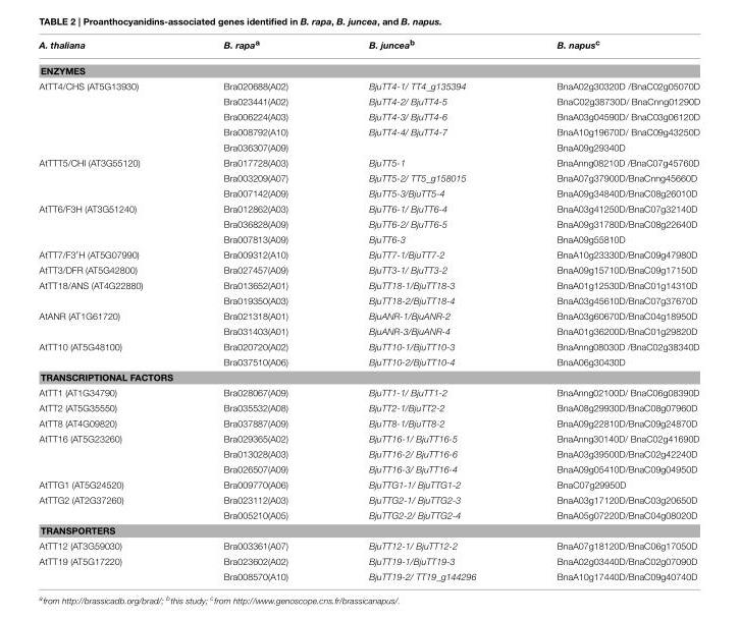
<table><thead><tr><td>A. thaliana</td><td>B. rapa<sup>a</sup></td><td>B. juncea<sup>b</sup></td><td>B. napus<sup>c</sup></td></tr></thead><tbody><tr><td colspan="4">ENZYMES</td></tr><tr><td rowspan="5">AtTT4/CHS (AT5G13930)</td><td>Bra020688(A02)</td><td>BjuTT4-1/ TT4_g135394</td><td>BnaA02g30320D /BnaC02g05070D</td></tr><tr><td>Bra023441(A02)</td><td>BjuTT4-2/ BjuTT4-5</td><td>BnaC02g38730D/ BnaCnng01290D</td></tr><tr><td>Bra006224(A03)</td><td>BjuTT4-3/ BjuTT4-6</td><td>BnaA03g04590D/ BnaC03g06120D</td></tr><tr><td>Bra008792(A10)</td><td>BjuTT4-4/ BjuTT4-7</td><td>BnaA10g19670D/ BnaC09g43250D</td></tr><tr><td>Bra036307(A09)</td><td></td><td>BnaA09g29340D</td></tr><tr><td rowspan="3">AtTTT5/CHI (AT3G55120)</td><td>Bra017728(A03)</td><td>BjuTT5-1</td><td>BnaAnng08210D /BnaC07g45760D</td></tr><tr><td>Bra003209(A07)</td><td>BjuTT5-2/ TT5_g158015</td><td>BnaA07g37900D/BnaCnng45660D</td></tr><tr><td>Bra007142(A09)</td><td>BjuTT5-3/BjuTT5-4</td><td>BnaA09g34840D/BnaC08g26010D</td></tr><tr><td rowspan="3">AtTT6/F3H (AT3G51240)</td><td>Bra012862(A03)</td><td>BjuTT6-1/ BjuTT6-4</td><td>BnaA03g41250D/BnaC07g32140D</td></tr><tr><td>Bra036828(A09)</td><td>BjuTT6-2/ BjuTT6-5</td><td>BnaA09g31780D/BnaC08g22640D</td></tr><tr><td>Bra007813(A09)</td><td>BjuTT6-3</td><td>BnaA09g55810D</td></tr><tr><td>AtTT7/F3′H (AT5G07990)</td><td>Bra009312(A10)</td><td>BjuTT7-1/BjuTT7-2</td><td>BnaA10g23330D/BnaC09g47980D</td></tr><tr><td>AtTT3/DFR (AT5G42800)</td><td>Bra027457(A09)</td><td>BjuTT3-1/ BjuTT3-2</td><td>BnaA09g15710D/BnaC09g17150D</td></tr><tr><td rowspan="2">AtTT18/ANS (AT4G22880)</td><td>Bra013652(A01)</td><td>BjuTT18-1/BjuTT18-3</td><td>BnaA01g12530D/BnaC01g14310D</td></tr><tr><td>Bra019350(A03)</td><td>BjuTT18-2/BjuTT18-4</td><td>BnaA03g45610D/BnaC07g37670D</td></tr><tr><td rowspan="2">AtANR (AT1G61720)</td><td>Bra021318(A01)</td><td>BjuANR-1/BjuANR-2</td><td>BnaA03g60670D/BnaC04g18950D</td></tr><tr><td>Bra031403(A01)</td><td>BjuANR-3/BjuANR-4</td><td>BnaA01g36200D/BnaC01g29820D</td></tr><tr><td rowspan="2">AtTT10 (AT5G48100)</td><td>Bra020720(A02)</td><td>BjuTT10-1/BjuTT10-3</td><td>BnaAnng08030D /BnaC02g38340D</td></tr><tr><td>Bra037510(A06)</td><td>BjuTT10-2/BjuTT10-4</td><td>BnaA06g30430D</td></tr><tr><td colspan="4">TRANSCRIPTIONAL FACTORS</td></tr><tr><td>AtTT1 (AT1G34790)</td><td>Bra028067(A09)</td><td>BjuTT1-1/ BjuTT1-2</td><td>BnaAnng02100D/ BnaC06g08390D</td></tr><tr><td>AtTT2 (AT5G35550)</td><td>Bra035532(A08)</td><td>BjuTT2-1/BjuTT2-2</td><td>BnaA08g29930D/BnaC08g07960D</td></tr><tr><td>AtTT8 (AT4G09820)</td><td>Bra037887(A09)</td><td>BjuTT8-1/BjuTT8-2</td><td>BnaA09g22810D/BnaC09g24870D</td></tr><tr><td rowspan="3">AtTT16 (AT5G23260)</td><td>Bra029365(A02)</td><td>BjuTT16-1/ BjuTT16-5</td><td>BnaAnng30140D/ BnaC02g41690D</td></tr><tr><td>Bra013028(A03)</td><td>BjuTT16-2/ BjuTT16-6</td><td>BnaA03g39500D/BnaC02g42240D</td></tr><tr><td>Bra026507(A09)</td><td>BjuTT16-3/ BjuTT16-4</td><td>BnaA09g05410D/BnaC09g04950D</td></tr><tr><td>AtTTG1 (AT5G24520)</td><td>Bra009770(A06)</td><td>BjuTTG1-1/ BjuTTG1-2</td><td>BnaC07g29950D</td></tr><tr><td rowspan="2">AtTTG2 (AT2G37260)</td><td>Bra023112(A03)</td><td>BjuTTG2-1/ BjuTTG2-3</td><td>BnaA03g17120D/BnaC03g20650D</td></tr><tr><td>Bra005210(A05)</td><td>BjuTTG2-2/ BjuTTG2-4</td><td>BnaA05g07220D/BnaC04g08020D</td></tr><tr><td colspan="4">TRANSPORTERS</td></tr><tr><td>AtTT12 (AT3G59030)</td><td>Bra003361(A07)</td><td>BjuTT12-1/ BjuTT12-2</td><td>BnaA07g18120D/BnaC06g17050D</td></tr><tr><td rowspan="2">AtTT19 (AT5G17220)</td><td>Bra023602(A02)</td><td>BjuTT19-1/BjuTT19-3</td><td>BnaA02g03440D/BnaC02g07090D</td></tr><tr><td>Bra008570(A10)</td><td>BjuTT19-2/ TT19_g144296</td><td>BnaA10g17440D/BnaC09g40740D</td></tr></tbody></table>